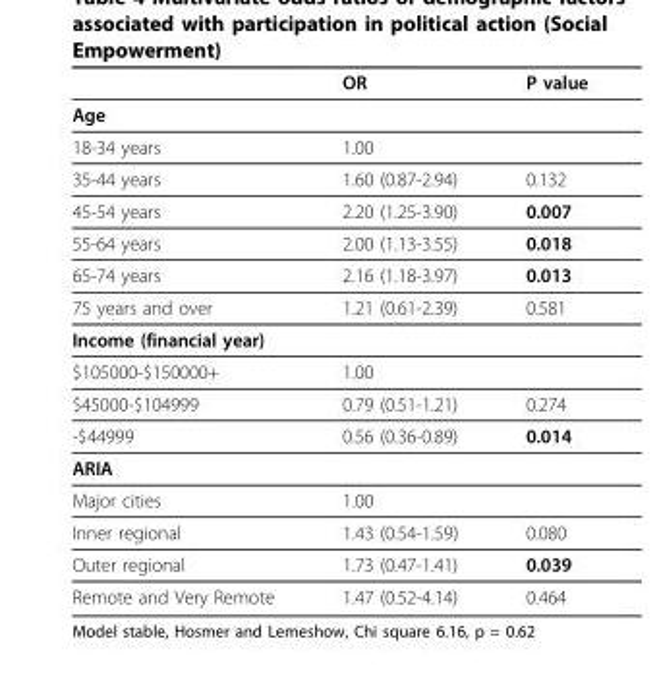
<table><thead><tr><td></td><td>OR</td><td>P value</td></tr></thead><tbody><tr><td colspan="3">Age</td></tr><tr><td>18-34 years</td><td>1.00</td><td></td></tr><tr><td>35-44 years</td><td>1.60 (0.87-2.94)</td><td>0.132</td></tr><tr><td>45-54 years</td><td>2.20 (1.25-3.90)</td><td>0.007</td></tr><tr><td>55-64 years</td><td>2.00 (1.13-3.55)</td><td>0.018</td></tr><tr><td>65-74 years</td><td>2.16 (1.18-3.97)</td><td>0.013</td></tr><tr><td>75 years and over</td><td>1.21 (0.61-2.39)</td><td>0.581</td></tr><tr><td colspan="3">Income (financial year)</td></tr><tr><td>$105000-$150000+</td><td>1.00</td><td></td></tr><tr><td>$45000-$104999</td><td>0.79 (0.51-1.21)</td><td>0.274</td></tr><tr><td>-$44999</td><td>0.56 (0.36-0.89)</td><td>0.014</td></tr><tr><td colspan="3">ARIA</td></tr><tr><td>Major cities</td><td>1.00</td><td></td></tr><tr><td>Inner regional</td><td>1.43 (0.54-1.59)</td><td>0.080</td></tr><tr><td>Outer regional</td><td>1.73 (0.47-1.41)</td><td>0.039</td></tr><tr><td>Remote and Very Remote</td><td>1.47 (0.52-4.14)</td><td>0.464</td></tr></tbody></table>